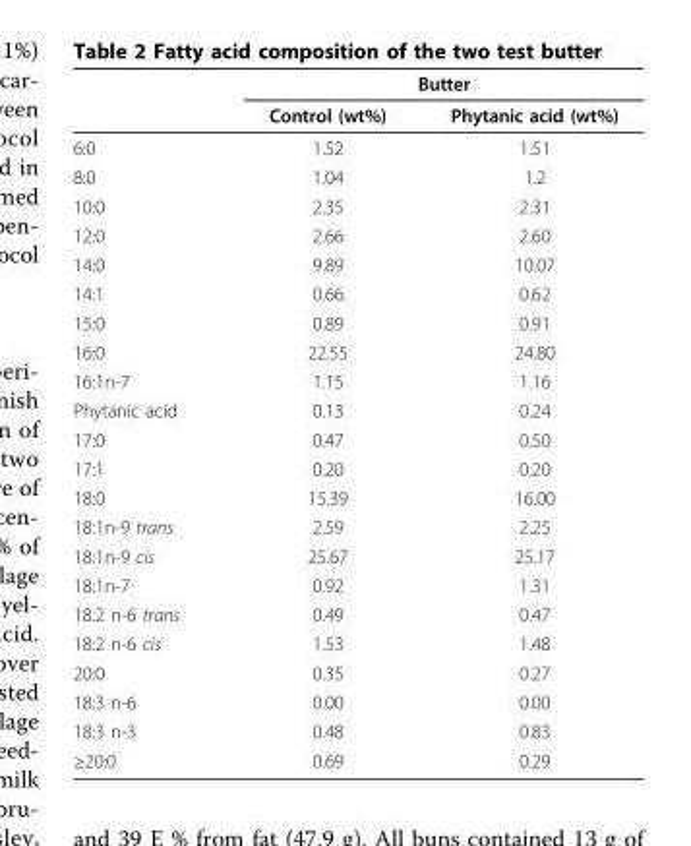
<table><thead><tr><td rowspan="2"></td><td colspan="2">Butter</td></tr><tr><td>Control (wt%)</td><td>Phytanic acid (wt%)</td></tr></thead><tbody><tr><td>6:0</td><td>1.52</td><td>1.51</td></tr><tr><td>8:0</td><td>1.04</td><td>1.2</td></tr><tr><td>10:0</td><td>2.35</td><td>2.31</td></tr><tr><td>12:0</td><td>2.66</td><td>2.60</td></tr><tr><td>14:0</td><td>9.89</td><td>10.07</td></tr><tr><td>14:1</td><td>0.66</td><td>0.62</td></tr><tr><td>15:0</td><td>0.89</td><td>0.91</td></tr><tr><td>16:0</td><td>22.55</td><td>24.80</td></tr><tr><td>16:1n-7</td><td>1.15</td><td>1.16</td></tr><tr><td>Phytanic acid</td><td>0.13</td><td>0.24</td></tr><tr><td>17:0</td><td>0.47</td><td>0.50</td></tr><tr><td>17:1</td><td>0.20</td><td>0.20</td></tr><tr><td>18:0</td><td>15.39</td><td>16.00</td></tr><tr><td>18:1n-9 trans</td><td>2.59</td><td>2.25</td></tr><tr><td>18:1n-9 cis</td><td>25.67</td><td>25.17</td></tr><tr><td>18:1n-7</td><td>0.92</td><td>1.31</td></tr><tr><td>18:2 n-6 trans</td><td>0.49</td><td>0.47</td></tr><tr><td>18:2 n-6 cis</td><td>1.53</td><td>1.48</td></tr><tr><td>20:0</td><td>0.35</td><td>0.27</td></tr><tr><td>18:3 n-6</td><td>0.00</td><td>0.00</td></tr><tr><td>18:3 n-3</td><td>0.48</td><td>0.83</td></tr><tr><td>≥20:0</td><td>0.69</td><td>0.29</td></tr></tbody></table>